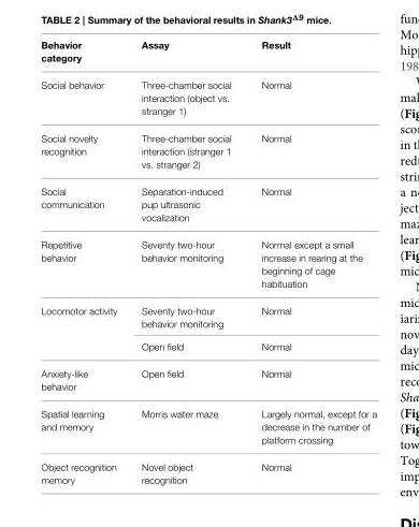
<table><thead><tr><td>Behavior category</td><td>Assay</td><td>Result</td></tr></thead><tbody><tr><td>Social behavior</td><td>Three-chamber social interaction (object vs. stranger 1)</td><td>Normal</td></tr><tr><td>Social novelty recognition</td><td>Three-chamber social interaction (stranger 1 vs. stranger 2)</td><td>Normal</td></tr><tr><td>Social communication</td><td>Separation-induced pup ultrasonic vocalization</td><td>Normal</td></tr><tr><td>Repetitive behavior</td><td>Seventy two-hour behavior monitoring</td><td>Normal except a small increase in rearing at the beginning of cage habituation</td></tr><tr><td rowspan="2">Locomotor activity</td><td>Seventy two-hour behavior monitoring</td><td>Normal</td></tr><tr><td>Open field</td><td>Normal</td></tr><tr><td>Anxiety-like behavior</td><td>Open field</td><td>Normal</td></tr><tr><td>Spatial learning and memory</td><td>Morris water maze</td><td>Largely normal, except for a decrease in the number of platform crossing</td></tr><tr><td>Object recognition memory</td><td>Novel object recognition</td><td>Normal</td></tr></tbody></table>